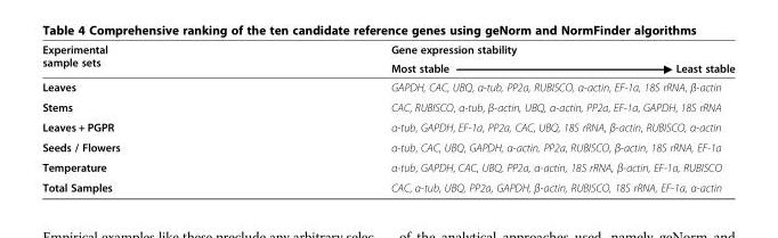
<table><thead><tr><td rowspan="2">Experimental sample sets</td><td rowspan="2">Gene expression stability Most stable Least stable</td></tr><tr></tr></thead><tbody><tr><td>Leaves</td><td>GAPDH, CAC, UBQ, α-tub, PP2a, RUBISCO, α-actin, EF-1a, 18S rRNA, β-actin</td></tr><tr><td>Stems</td><td>CAC, RUBISCO, α-tub, β-actin, UBQ, α-actin, PP2a, EF-1a, GAPDH, 18S rRNA</td></tr><tr><td>Leaves + PGPR</td><td>α-tub, GAPDH, EF-1a, PP2a, CAC, UBQ, 18S rRNA, β-actin, RUBISCO, α-actin</td></tr><tr><td>Seeds / Flowers</td><td>α-tub, CAC, UBQ, GAPDH, α-actin, PP2a, RUBISCO, β-actin, 18S rRNA, EF-1a</td></tr><tr><td>Temperature</td><td>α-tub, GAPDH, CAC, UBQ, PP2a, α-actin, 18S rRNA, β-actin, EF-1a, RUBISCO</td></tr><tr><td>Total Samples</td><td>CAC, α-tub, UBQ, PP2a, GAPDH, β-actin, RUBISCO, 18S rRNA, EF-1a, α-actin</td></tr></tbody></table>